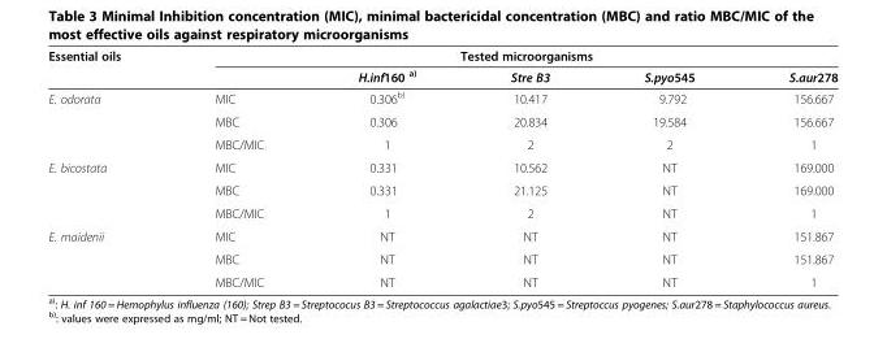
<table><thead><tr><td rowspan="2">Essential oils</td><td colspan="5">Tested microorganisms</td></tr><tr><td></td><td>H.inf160 <sup>a)</sup></td><td>Stre B3</td><td>S.pyo545</td><td>S.aur278</td></tr></thead><tbody><tr><td rowspan="3">E. odorata</td><td>MIC</td><td>0.306<sup>b)</sup></td><td>10.417</td><td>9.792</td><td>156.667</td></tr><tr><td>MBC</td><td>0.306</td><td>20.834</td><td>19.584</td><td>156.667</td></tr><tr><td>MBC/MIC</td><td>1</td><td>2</td><td>2</td><td>1</td></tr><tr><td rowspan="3">E. bicostata</td><td>MIC</td><td>0.331</td><td>10.562</td><td>NT</td><td>169.000</td></tr><tr><td>MBC</td><td>0.331</td><td>21.125</td><td>NT</td><td>169.000</td></tr><tr><td>MBC/MIC</td><td>1</td><td>2</td><td>NT</td><td>1</td></tr><tr><td rowspan="3">E. maidenii</td><td>MIC</td><td>NT</td><td>NT</td><td>NT</td><td>151.867</td></tr><tr><td>MBC</td><td>NT</td><td>NT</td><td>NT</td><td>151.867</td></tr><tr><td>MBC/MIC</td><td>NT</td><td>NT</td><td>NT</td><td>1</td></tr></tbody></table>